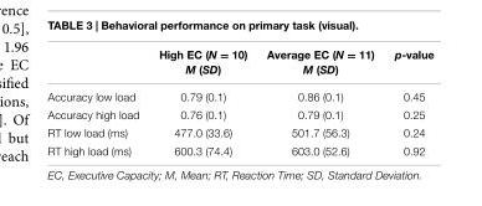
<table><thead><tr><td></td><td>High EC (N = 10) M (SD)</td><td>Average EC (N = 11) M (SD)</td><td>p-value</td></tr></thead><tbody><tr><td>Accuracy low load</td><td>0.79 (0.1)</td><td>0.86 (0.1)</td><td>0.45</td></tr><tr><td>Accuracy high load</td><td>0.76 (0.1)</td><td>0.79 (0.1)</td><td>0.25</td></tr><tr><td>RT low load (ms)</td><td>477.0 (33.6)</td><td>501.7 (56.3)</td><td>0.24</td></tr><tr><td>RT high load (ms)</td><td>600.3 (74.4)</td><td>603.0 (52.6)</td><td>0.92</td></tr></tbody></table>